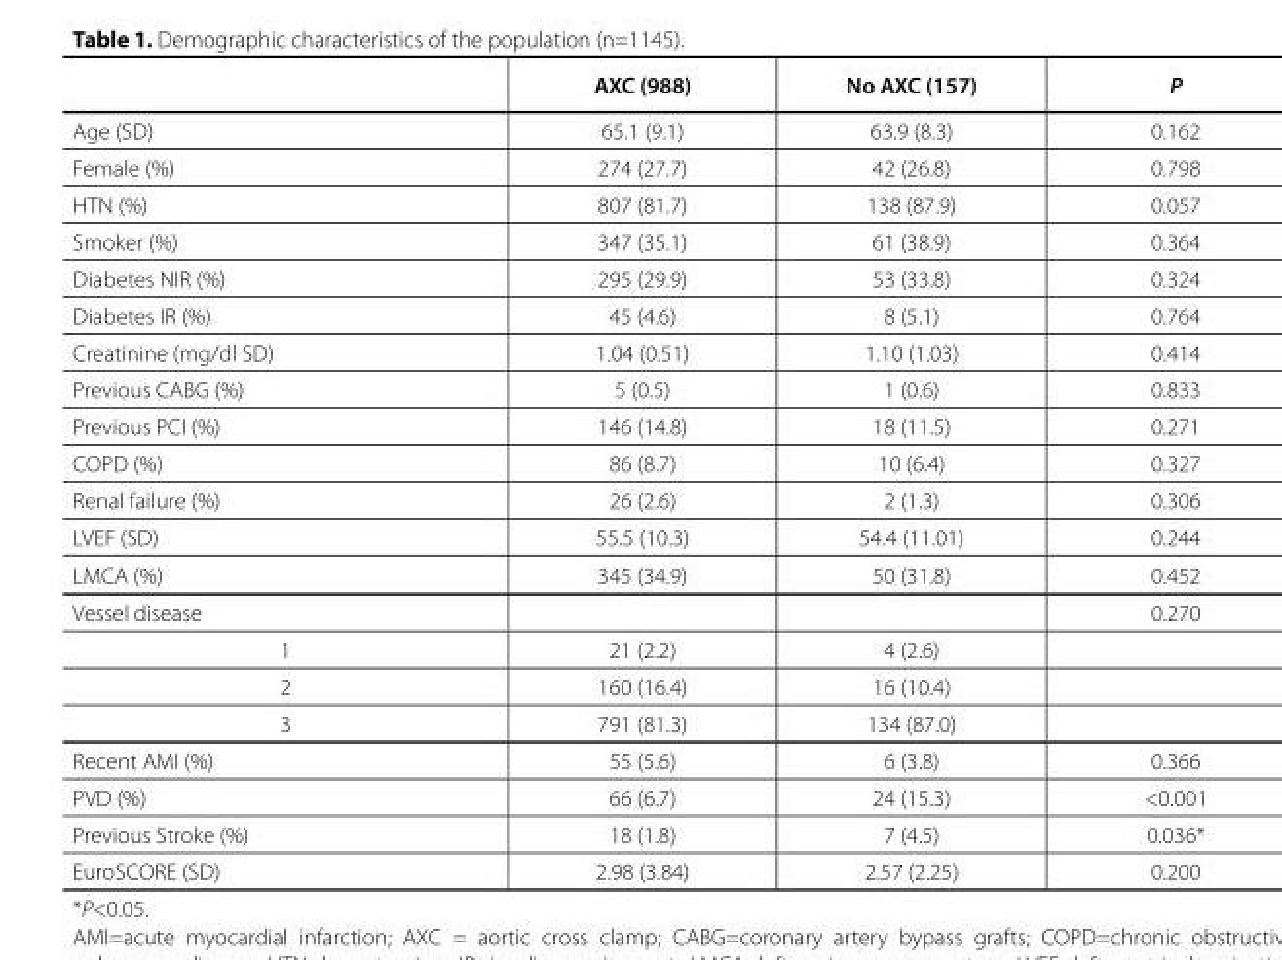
<table><thead><tr><td></td><td>AXC (988)</td><td>No AXC (157)</td><td>P</td></tr></thead><tbody><tr><td>Age (SD)</td><td>65.1 (9.1)</td><td>63.9 (8.3)</td><td>0.162</td></tr><tr><td>Female (%)</td><td>274 (27.7)</td><td>42 (26.8)</td><td>0.798</td></tr><tr><td>HTN (%)</td><td>807 (81.7)</td><td>138 (87.9)</td><td>0.057</td></tr><tr><td>Smoker (%)</td><td>347 (35.1)</td><td>61 (38.9)</td><td>0.364</td></tr><tr><td>Diabetes NIR (%)</td><td>295 (29.9)</td><td>53 (33.8)</td><td>0.324</td></tr><tr><td>Diabetes IR (%)</td><td>45 (4.6)</td><td>8 (5.1)</td><td>0.764</td></tr><tr><td>Creatinine (mg/dl SD)</td><td>1.04 (0.51)</td><td>1.10 (1.03)</td><td>0.414</td></tr><tr><td>Previous CABG (%)</td><td>5 (0.5)</td><td>1 (0.6)</td><td>0.833</td></tr><tr><td>Previous PCI (%)</td><td>146 (14.8)</td><td>18 (11.5)</td><td>0.271</td></tr><tr><td>COPD (%)</td><td>86 (8.7)</td><td>10 (6.4)</td><td>0.327</td></tr><tr><td>Renal failure (%)</td><td>26 (2.6)</td><td>2 (1.3)</td><td>0.306</td></tr><tr><td>LVEF (SD)</td><td>55.5 (10.3)</td><td>54.4 (11.01)</td><td>0.244</td></tr><tr><td>LMCA (%)</td><td>345 (34.9)</td><td>50 (31.8)</td><td>0.452</td></tr><tr><td>Vessel disease</td><td></td><td></td><td>0.270</td></tr><tr><td>1</td><td>21 (2.2)</td><td>4 (2.6)</td><td></td></tr><tr><td>2</td><td>160 (16.4)</td><td>16 (10.4)</td><td></td></tr><tr><td>3</td><td>791 (81.3)</td><td>134 (87.0)</td><td></td></tr><tr><td>Recent AMI (%)</td><td>55 (5.6)</td><td>6 (3.8)</td><td>0.366</td></tr><tr><td>PVD (%)</td><td>66 (6.7)</td><td>24 (15.3)</td><td>&lt;0.001</td></tr><tr><td>Previous Stroke (%)</td><td>18 (1.8)</td><td>7 (4.5)</td><td>0.036*</td></tr><tr><td>EuroSCORE (SD)</td><td>2.98 (3.84)</td><td>2.57 (2.25)</td><td>0.200</td></tr></tbody></table>